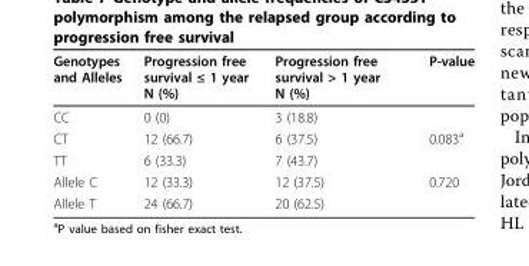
<table><thead><tr><td>Genotypes and Alleles</td><td>Progression free survival ≤ 1 year N (%)</td><td>Progression free survival &gt; 1 year N (%)</td><td>P-value</td></tr></thead><tbody><tr><td>CC</td><td>0 (0)</td><td>3 (18.8)</td><td></td></tr><tr><td>CT</td><td>12 (66.7)</td><td>6 (37.5)</td><td>0.083<sup>a</sup></td></tr><tr><td>TT</td><td>6 (33.3)</td><td>7 (43.7)</td><td></td></tr><tr><td>Allele C</td><td>12 (33.3)</td><td>12 (37.5)</td><td>0.720</td></tr><tr><td>Allele T</td><td>24 (66.7)</td><td>20 (62.5)</td><td></td></tr></tbody></table>